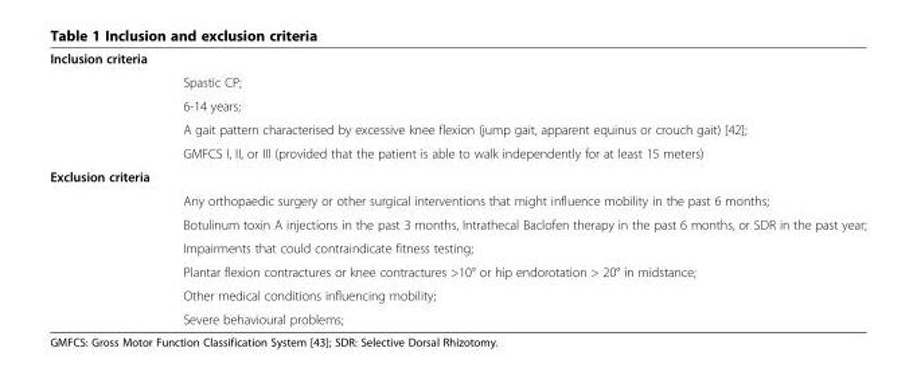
<table><tbody><tr><td colspan="2">Inclusion criteria</td></tr><tr><td></td><td>Spastic CP;</td></tr><tr><td></td><td>6-14 years;</td></tr><tr><td></td><td>A gait pattern characterised by excessive knee flexion (jump gait, apparent equinus or crouch gait) [42];</td></tr><tr><td></td><td>GMFCS I, II, or III (provided that the patient is able to walk independently for at least 15 meters)</td></tr><tr><td colspan="2">Exclusion criteria</td></tr><tr><td></td><td>Any orthopaedic surgery or other surgical interventions that might influence mobility in the past 6 months;</td></tr><tr><td></td><td>Botulinum toxin A injections in the past 3 months, Intrathecal Baclofen therapy in the past 6 months, or SDR in the past year;</td></tr><tr><td></td><td>Impairments that could contraindicate fitness testing;</td></tr><tr><td></td><td>Plantar flexion contractures or knee contractures &gt;10° or hip endorotation &gt; 20° in midstance;</td></tr><tr><td></td><td>Other medical conditions influencing mobility;</td></tr><tr><td></td><td>Severe behavioural problems;</td></tr></tbody></table>